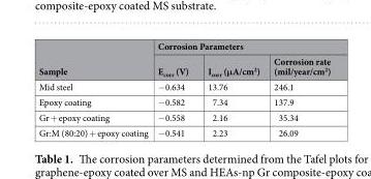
<table><thead><tr><td rowspan="2">Sample</td><td colspan="3">Corrosion Parameters</td></tr><tr><td>E<sub>corr</sub> (V)</td><td>I<sub>corr</sub> (μA/cm<sup>2</sup>)</td><td>Corrosion rate (mil/year/cm<sup>2</sup>)</td></tr></thead><tbody><tr><td>Mid steel</td><td>−0.634</td><td>13.76</td><td>246.1</td></tr><tr><td>Epoxy coating</td><td>−0.582</td><td>7.34</td><td>137.9</td></tr><tr><td>Gr + epoxy coating</td><td>−0.558</td><td>2.16</td><td>35.34</td></tr><tr><td>Gr:M (80:20) + epoxy coating</td><td>−0.541</td><td>2.23</td><td>26.09</td></tr></tbody></table>